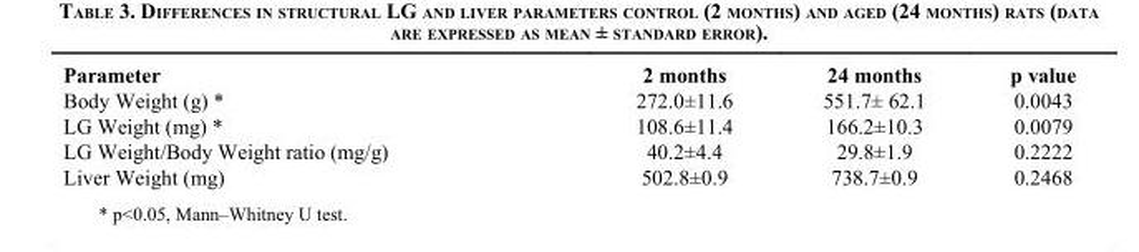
<table><thead><tr><td>Parameter</td><td>2 months</td><td>24 months</td><td>p value</td></tr></thead><tbody><tr><td>Body Weight (g) *</td><td>272.0±11.6</td><td>551.7± 62.1</td><td>0.0043</td></tr><tr><td>LG Weight (mg) *</td><td>108.6±11.4</td><td>166.2±10.3</td><td>0.0079</td></tr><tr><td>LG Weight/Body Weight ratio (mg/g)</td><td>40.2±4.4</td><td>29.8±1.9</td><td>0.2222</td></tr><tr><td>Liver Weight (mg)</td><td>502.8±0.9</td><td>738.7±0.9</td><td>0.2468</td></tr></tbody></table>